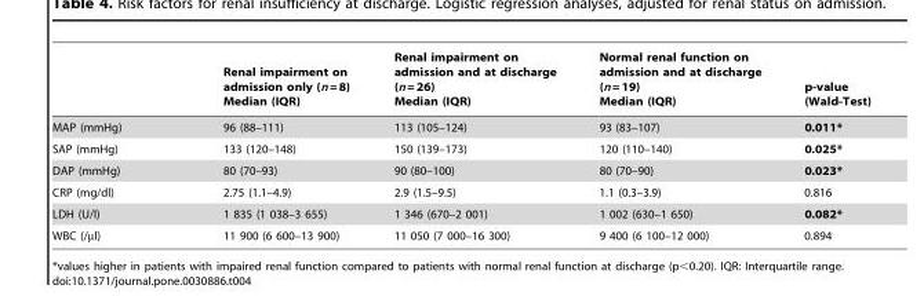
<table><thead><tr><td></td><td>Renal impairment on admission only (n = 8) Median (IQR)</td><td>Renal impairment on admission and at discharge (n = 26) Median (IQR)</td><td>Normal renal function on admission and at discharge (n = 19) Median (IQR)</td><td>p-value (Wald-Test)</td></tr></thead><tbody><tr><td>MAP (mmHg)</td><td>96 (88–111)</td><td>113 (105–124)</td><td>93 (83–107)</td><td>0.011*</td></tr><tr><td>SAP (mmHg)</td><td>133 (120–148)</td><td>150 (139–173)</td><td>120 (110–140)</td><td>0.025*</td></tr><tr><td>DAP (mmHg)</td><td>80 (70–93)</td><td>90 (80–100)</td><td>80 (70–90)</td><td>0.023*</td></tr><tr><td>CRP (mg/dl)</td><td>2.75 (1.1–4.9)</td><td>2.9 (1.5–9.5)</td><td>1.1 (0.3–3.9)</td><td>0.816</td></tr><tr><td>LDH (U/l)</td><td>1 835 (1 038–3 655)</td><td>1 346 (670–2 001)</td><td>1 002 (630–1 650)</td><td>0.082*</td></tr><tr><td>WBC (/µl)</td><td>11 900 (6 600–13 900)</td><td>11 050 (7 000–16 300)</td><td>9 400 (6 100–12 000)</td><td>0.894</td></tr></tbody></table>